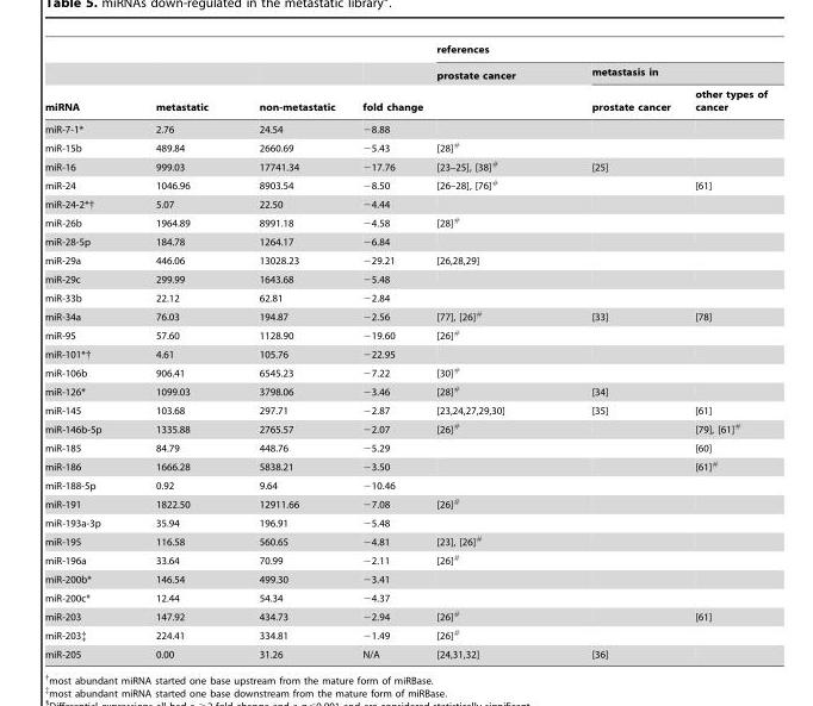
<table><thead><tr><td rowspan="3">miRNA</td><td rowspan="3">metastatic</td><td rowspan="3">non-metastatic</td><td rowspan="3">fold change</td><td colspan="3">references</td></tr><tr><td rowspan="2">prostate cancer</td><td colspan="2">metastasis in</td></tr><tr><td>prostate cancer</td><td>other types of cancer</td></tr></thead><tbody><tr><td>miR-7-1*</td><td>2.76</td><td>24.54</td><td>−8.88</td><td></td><td></td><td></td></tr><tr><td>miR-15b</td><td>489.84</td><td>2660.69</td><td>−5.43</td><td>[28]#</td><td></td><td></td></tr><tr><td>miR-16</td><td>999.03</td><td>17741.34</td><td>−17.76</td><td>[23–25], [38]#</td><td>[25]</td><td></td></tr><tr><td>miR-24</td><td>1046.96</td><td>8903.54</td><td>−8.50</td><td>[26–28], [76]#</td><td></td><td>[61]</td></tr><tr><td>miR-24-2*†</td><td>5.07</td><td>22.50</td><td>−4.44</td><td></td><td></td><td></td></tr><tr><td>miR-26b</td><td>1964.89</td><td>8991.18</td><td>−4.58</td><td>[28]#</td><td></td><td></td></tr><tr><td>miR-28-5p</td><td>184.78</td><td>1264.17</td><td>−6.84</td><td></td><td></td><td></td></tr><tr><td>miR-29a</td><td>446.06</td><td>13028.23</td><td>−29.21</td><td>[26,28,29]</td><td></td><td></td></tr><tr><td>miR-29c</td><td>299.99</td><td>1643.68</td><td>−5.48</td><td></td><td></td><td></td></tr><tr><td>miR-33b</td><td>22.12</td><td>62.81</td><td>−2.84</td><td></td><td></td><td></td></tr><tr><td>miR-34a</td><td>76.03</td><td>194.87</td><td>−2.56</td><td>[77], [26]#</td><td>[33]</td><td>[78]</td></tr><tr><td>miR-95</td><td>57.60</td><td>1128.90</td><td>−19.60</td><td>[26]#</td><td></td><td></td></tr><tr><td>miR-101*†</td><td>4.61</td><td>105.76</td><td>−22.95</td><td></td><td></td><td></td></tr><tr><td>miR-106b</td><td>906.41</td><td>6545.23</td><td>−7.22</td><td>[30]#</td><td></td><td></td></tr><tr><td>miR-126*</td><td>1099.03</td><td>3798.06</td><td>−3.46</td><td>[28]#</td><td>[34]</td><td></td></tr><tr><td>miR-145</td><td>103.68</td><td>297.71</td><td>−2.87</td><td>[23,24,27,29,30]</td><td>[35]</td><td>[61]</td></tr><tr><td>miR-146b-5p</td><td>1335.88</td><td>2765.57</td><td>−2.07</td><td>[26]#</td><td></td><td>[79], [61]#</td></tr><tr><td>miR-185</td><td>84.79</td><td>448.76</td><td>−5.29</td><td></td><td></td><td>[60]</td></tr><tr><td>miR-186</td><td>1666.28</td><td>5838.21</td><td>−3.50</td><td></td><td></td><td>[61]#</td></tr><tr><td>miR-188-5p</td><td>0.92</td><td>9.64</td><td>−10.46</td><td></td><td></td><td></td></tr><tr><td>miR-191</td><td>1822.50</td><td>12911.66</td><td>−7.08</td><td>[26]#</td><td></td><td></td></tr><tr><td>miR-193a-3p</td><td>35.94</td><td>196.91</td><td>−5.48</td><td></td><td></td><td></td></tr><tr><td>miR-195</td><td>116.58</td><td>560.65</td><td>−4.81</td><td>[23], [26]#</td><td></td><td></td></tr><tr><td>miR-196a</td><td>33.64</td><td>70.99</td><td>−2.11</td><td>[26]#</td><td></td><td></td></tr><tr><td>miR-200b*</td><td>146.54</td><td>499.30</td><td>−3.41</td><td></td><td></td><td></td></tr><tr><td>miR-200c*</td><td>12.44</td><td>54.34</td><td>−4.37</td><td></td><td></td><td></td></tr><tr><td>miR-203</td><td>147.92</td><td>434.73</td><td>−2.94</td><td>[26]#</td><td></td><td>[61]</td></tr><tr><td>miR-203‡</td><td>224.41</td><td>334.81</td><td>−1.49</td><td>[26]#</td><td></td><td></td></tr><tr><td>miR-205</td><td>0.00</td><td>31.26</td><td>N/A</td><td>[24,31,32]</td><td>[36]</td><td></td></tr></tbody></table>